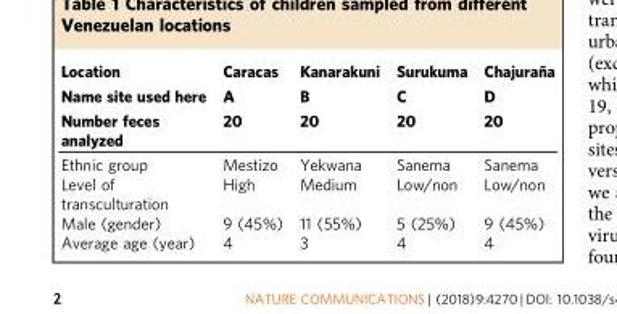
<table><thead><tr><td rowspan="3">Location Name site used here Number feces analyzed</td><td rowspan="3">Caracas A 20</td><td rowspan="3">Kanarakuni B 20</td><td rowspan="3">Surukuma C 20</td><td rowspan="3">Chajuraña D 20</td></tr><tr></tr><tr></tr></thead><tbody><tr><td>Ethnic group</td><td>Mestizo</td><td>Yekwana</td><td>Sanema</td><td>Sanema</td></tr><tr><td>Level of transculturation</td><td>High</td><td>Medium</td><td>Low/non</td><td>Low/non</td></tr><tr><td>Male (gender)</td><td>9 (45%)</td><td>11 (55%)</td><td>5 (25%)</td><td>9 (45%)</td></tr><tr><td>Average age (year)</td><td>4</td><td>3</td><td>4</td><td>4</td></tr></tbody></table>